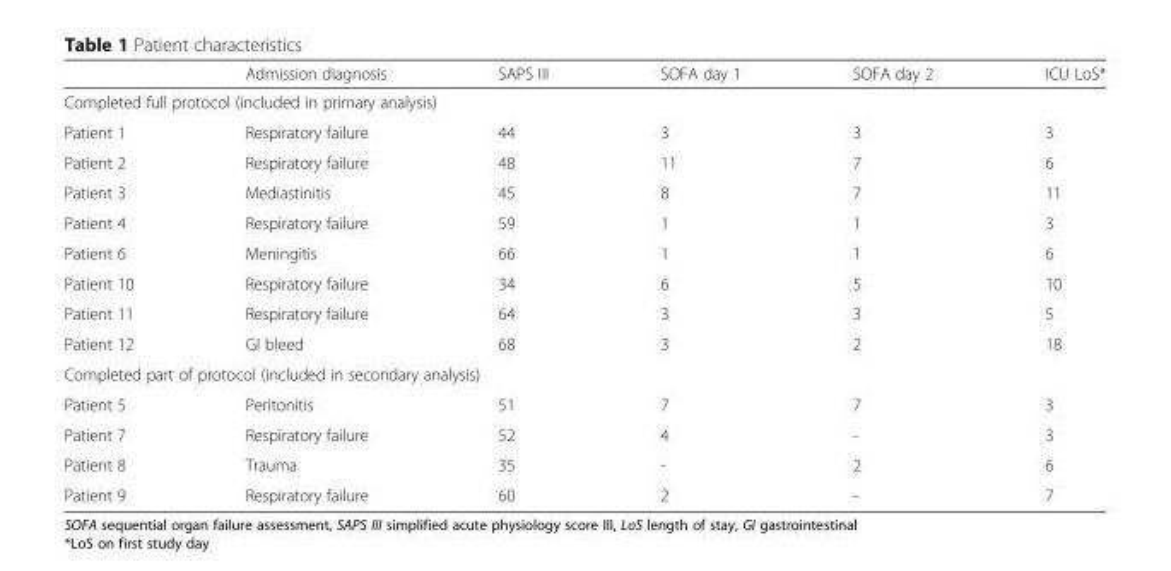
<table><thead><tr><td></td><td>Admission diagnosis</td><td>SAPS III</td><td>SOFA day 1</td><td>SOFA day 2</td><td>ICU LoS*</td></tr></thead><tbody><tr><td colspan="6">Completed full protocol (included in primary analysis)</td></tr><tr><td>Patient 1</td><td>Respiratory failure</td><td>44</td><td>3</td><td>3</td><td>3</td></tr><tr><td>Patient 2</td><td>Respiratory failure</td><td>48</td><td>11</td><td>7</td><td>6</td></tr><tr><td>Patient 3</td><td>Mediastinitis</td><td>45</td><td>8</td><td>7</td><td>11</td></tr><tr><td>Patient 4</td><td>Respiratory failure</td><td>59</td><td>1</td><td>1</td><td>3</td></tr><tr><td>Patient 6</td><td>Meningitis</td><td>66</td><td>1</td><td>1</td><td>6</td></tr><tr><td>Patient 10</td><td>Respiratory failure</td><td>34</td><td>6</td><td>5</td><td>10</td></tr><tr><td>Patient 11</td><td>Respiratory failure</td><td>64</td><td>3</td><td>3</td><td>5</td></tr><tr><td>Patient 12</td><td>GI bleed</td><td>68</td><td>3</td><td>2</td><td>18</td></tr><tr><td colspan="6">Completed part of protocol (included in secondary analysis)</td></tr><tr><td>Patient 5</td><td>Peritonitis</td><td>51</td><td>7</td><td>7</td><td>3</td></tr><tr><td>Patient 7</td><td>Respiratory failure</td><td>52</td><td>4</td><td>-</td><td>3</td></tr><tr><td>Patient 8</td><td>Trauma</td><td>35</td><td>-</td><td>2</td><td>6</td></tr><tr><td>Patient 9</td><td>Respiratory failure</td><td>60</td><td>2</td><td>-</td><td>7</td></tr></tbody></table>